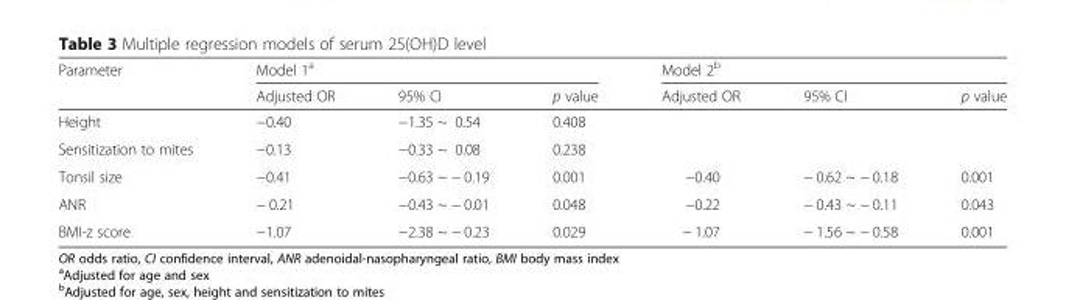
<table><thead><tr><td rowspan="2">Parameter</td><td colspan="3">Model 1<sup>a</sup></td><td colspan="3">Model 2<sup>b</sup></td></tr><tr><td>Adjusted OR</td><td>95% CI</td><td>p value</td><td>Adjusted OR</td><td>95% CI</td><td>p value</td></tr></thead><tbody><tr><td>Height</td><td>−0.40</td><td>−1.35 ~ 0.54</td><td>0.408</td><td></td><td></td><td></td></tr><tr><td>Sensitization to mites</td><td>−0.13</td><td>−0.33 ~ 0.08</td><td>0.238</td><td></td><td></td><td></td></tr><tr><td>Tonsil size</td><td>−0.41</td><td>−0.63 ~ − 0.19</td><td>0.001</td><td>−0.40</td><td>− 0.62 ~ − 0.18</td><td>0.001</td></tr><tr><td>ANR</td><td>− 0.21</td><td>−0.43 ~ − 0.01</td><td>0.048</td><td>−0.22</td><td>− 0.43 ~ − 0.11</td><td>0.043</td></tr><tr><td>BMI-z score</td><td>−1.07</td><td>−2.38 ~ − 0.23</td><td>0.029</td><td>− 1.07</td><td>− 1.56 ~ − 0.58</td><td>0.001</td></tr></tbody></table>